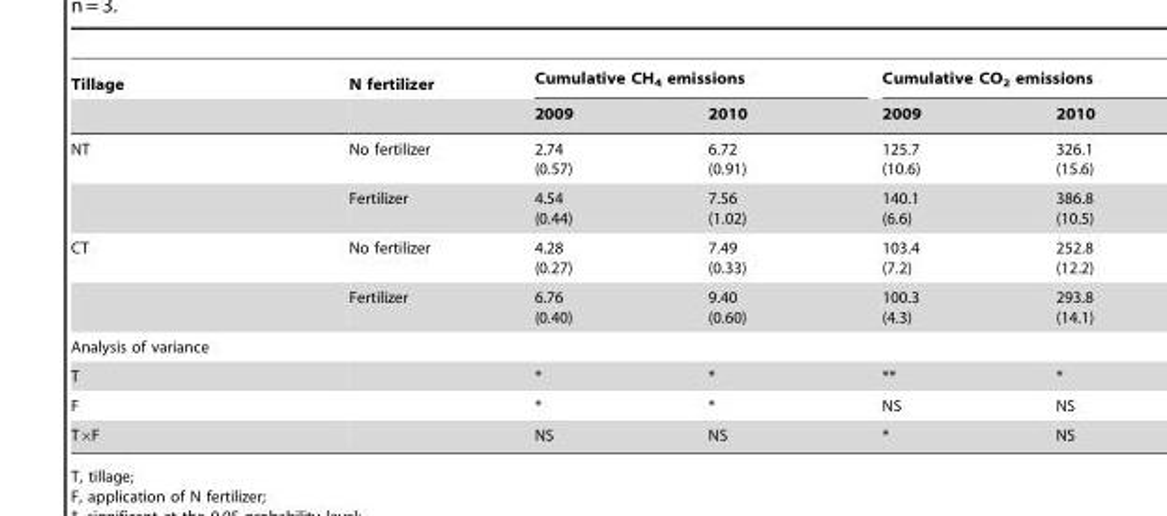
<table><thead><tr><td rowspan="2">Tillage</td><td rowspan="2">N fertilizer</td><td colspan="2">Cumulative CH<sub>4</sub> emissions</td><td colspan="2">Cumulative CO<sub>2</sub> emissions</td></tr><tr><td>2009</td><td>2010</td><td>2009</td><td>2010</td></tr></thead><tbody><tr><td rowspan="2">NT</td><td>No fertilizer</td><td>2.74 (0.57)</td><td>6.72 (0.91)</td><td>125.7 (10.6)</td><td>326.1 (15.6)</td></tr><tr><td>Fertilizer</td><td>4.54 (0.44)</td><td>7.56 (1.02)</td><td>140.1 (6.6)</td><td>386.8 (10.5)</td></tr><tr><td rowspan="2">CT</td><td>No fertilizer</td><td>4.28 (0.27)</td><td>7.49 (0.33)</td><td>103.4 (7.2)</td><td>252.8 (12.2)</td></tr><tr><td>Fertilizer</td><td>6.76 (0.40)</td><td>9.40 (0.60)</td><td>100.3 (4.3)</td><td>293.8 (14.1)</td></tr><tr><td colspan="6">Analysis of variance</td></tr><tr><td>T</td><td></td><td>*</td><td>*</td><td>**</td><td>*</td></tr><tr><td>F</td><td></td><td>*</td><td>*</td><td>NS</td><td>NS</td></tr><tr><td>T×F</td><td></td><td>NS</td><td>NS</td><td>*</td><td>NS</td></tr></tbody></table>